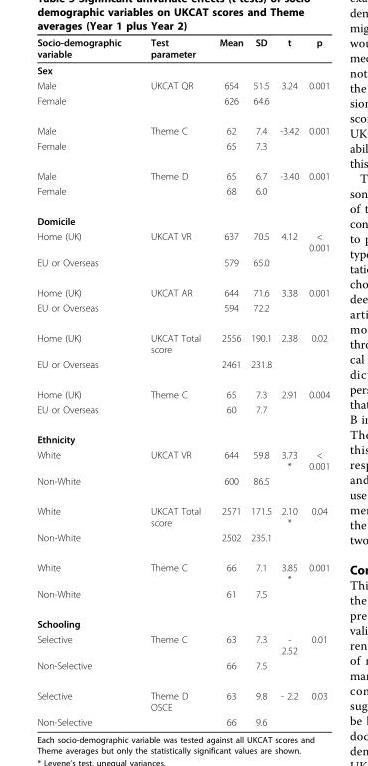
<table><thead><tr><td>Socio-demographic variable</td><td>Test parameter</td><td>Mean</td><td>SD</td><td>t</td><td>p</td></tr></thead><tbody><tr><td colspan="6">Sex</td></tr><tr><td>Male</td><td>UKCAT QR</td><td>654</td><td>51.5</td><td>3.24</td><td>0.001</td></tr><tr><td>Female</td><td></td><td>626</td><td>64.6</td><td></td><td></td></tr><tr><td>Male</td><td>Theme C</td><td>62</td><td>7.4</td><td>-3.42</td><td>0.001</td></tr><tr><td>Female</td><td></td><td>65</td><td>7.3</td><td></td><td></td></tr><tr><td>Male</td><td>Theme D</td><td>65</td><td>6.7</td><td>-3.40</td><td>0.001</td></tr><tr><td>Female</td><td></td><td>68</td><td>6.0</td><td></td><td></td></tr><tr><td colspan="6">Domicile</td></tr><tr><td>Home (UK)</td><td>UKCAT VR</td><td>637</td><td>70.5</td><td>4.12</td><td>&lt; 0.001</td></tr><tr><td>EU or Overseas</td><td></td><td>579</td><td>65.0</td><td></td><td></td></tr><tr><td>Home (UK)</td><td>UKCAT AR</td><td>644</td><td>71.6</td><td>3.38</td><td>0.001</td></tr><tr><td>EU or Overseas</td><td></td><td>594</td><td>72.2</td><td></td><td></td></tr><tr><td>Home (UK)</td><td>UKCAT Total score</td><td>2556</td><td>190.1</td><td>2.38</td><td>0.02</td></tr><tr><td>EU or Overseas</td><td></td><td>2461</td><td>231.8</td><td></td><td></td></tr><tr><td>Home (UK)</td><td>Theme C</td><td>65</td><td>7.3</td><td>2.91</td><td>0.004</td></tr><tr><td>EU or Overseas</td><td></td><td>60</td><td>7.7</td><td></td><td></td></tr><tr><td colspan="6">Ethnicity</td></tr><tr><td>White</td><td>UKCAT VR</td><td>644</td><td>59.8</td><td>3.73 *</td><td>&lt; 0.001</td></tr><tr><td>Non-White</td><td></td><td>600</td><td>86.5</td><td></td><td></td></tr><tr><td>White</td><td>UKCAT Total score</td><td>2571</td><td>171.5</td><td>2.10 *</td><td>0.04</td></tr><tr><td>Non-White</td><td></td><td>2502</td><td>235.1</td><td></td><td></td></tr><tr><td>White</td><td>Theme C</td><td>66</td><td>7.1</td><td>3.85 *</td><td>0.001</td></tr><tr><td>Non-White</td><td></td><td>61</td><td>7.5</td><td></td><td></td></tr><tr><td colspan="6">Schooling</td></tr><tr><td>Selective</td><td>Theme C</td><td>63</td><td>7.3</td><td>- 2.52</td><td>0.01</td></tr><tr><td>Non-Selective</td><td></td><td>66</td><td>7.5</td><td></td><td></td></tr><tr><td>Selective</td><td>Theme D OSCE</td><td>63</td><td>9.8</td><td>- 2.2</td><td>0.03</td></tr><tr><td>Non-Selective</td><td></td><td>66</td><td>9.6</td><td></td><td></td></tr></tbody></table>